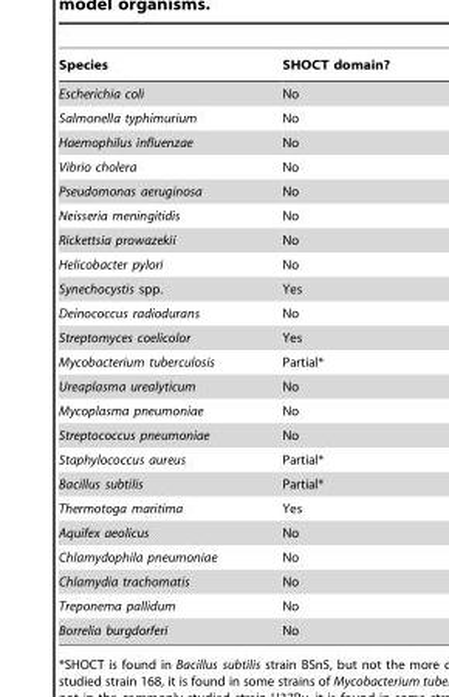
<table><thead><tr><td>Species</td><td>SHOCT domain?</td></tr></thead><tbody><tr><td>Escherichia coli</td><td>No</td></tr><tr><td>Salmonella typhimurium</td><td>No</td></tr><tr><td>Haemophilus influenzae</td><td>No</td></tr><tr><td>Vibrio cholera</td><td>No</td></tr><tr><td>Pseudomonas aeruginosa</td><td>No</td></tr><tr><td>Neisseria meningitidis</td><td>No</td></tr><tr><td>Rickettsia prowazekii</td><td>No</td></tr><tr><td>Helicobacter pylori</td><td>No</td></tr><tr><td>Synechocystis spp.</td><td>Yes</td></tr><tr><td>Deinococcus radiodurans</td><td>No</td></tr><tr><td>Streptomyces coelicolor</td><td>Yes</td></tr><tr><td>Mycobacterium tuberculosis</td><td>Partial*</td></tr><tr><td>Ureaplasma urealyticum</td><td>No</td></tr><tr><td>Mycoplasma pneumoniae</td><td>No</td></tr><tr><td>Streptococcus pneumoniae</td><td>No</td></tr><tr><td>Staphylococcus aureus</td><td>Partial*</td></tr><tr><td>Bacillus subtilis</td><td>Partial*</td></tr><tr><td>Thermotoga maritima</td><td>Yes</td></tr><tr><td>Aquifex aeolicus</td><td>No</td></tr><tr><td>Chlamydophila pneumoniae</td><td>No</td></tr><tr><td>Chlamydia trachomatis</td><td>No</td></tr><tr><td>Treponema pallidum</td><td>No</td></tr><tr><td>Borrelia burgdorferi</td><td>No</td></tr></tbody></table>